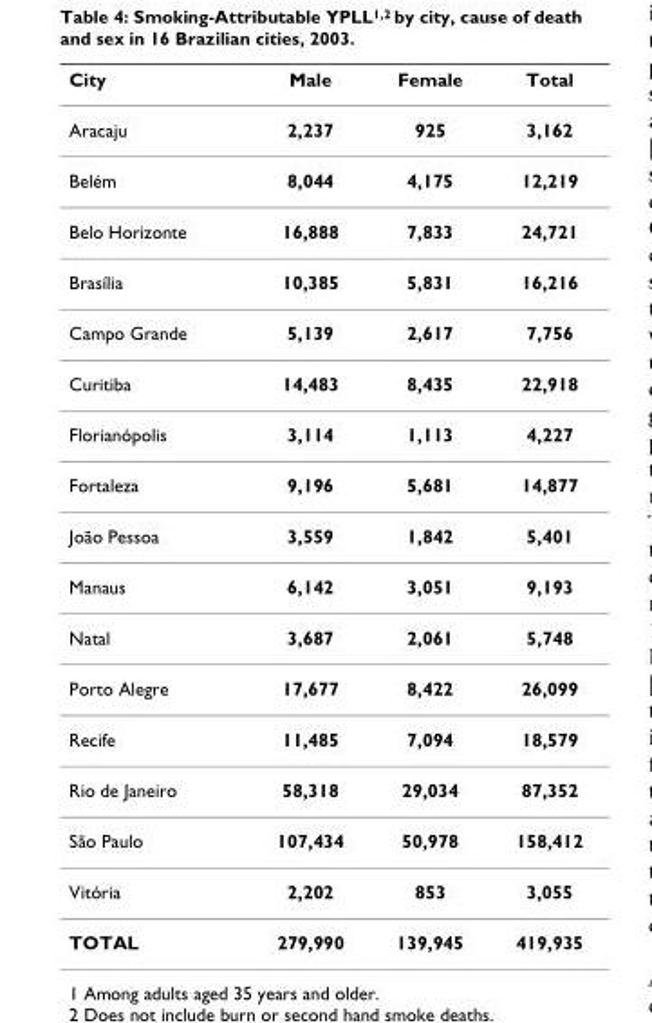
<table><thead><tr><td>City</td><td>Male</td><td>Female</td><td>Total</td></tr></thead><tbody><tr><td>Aracaju</td><td>2,237</td><td>925</td><td>3,162</td></tr><tr><td>Belém</td><td>8,044</td><td>4,175</td><td>12,219</td></tr><tr><td>Belo Horizonte</td><td>16,888</td><td>7,833</td><td>24,721</td></tr><tr><td>Brasília</td><td>10,385</td><td>5,831</td><td>16,216</td></tr><tr><td>Campo Grande</td><td>5,139</td><td>2,617</td><td>7,756</td></tr><tr><td>Curitiba</td><td>14,483</td><td>8,435</td><td>22,918</td></tr><tr><td>Florianópolis</td><td>3,114</td><td>1,113</td><td>4,227</td></tr><tr><td>Fortaleza</td><td>9,196</td><td>5,681</td><td>14,877</td></tr><tr><td>João Pessoa</td><td>3,559</td><td>1,842</td><td>5,401</td></tr><tr><td>Manaus</td><td>6,142</td><td>3,051</td><td>9,193</td></tr><tr><td>Natal</td><td>3,687</td><td>2,061</td><td>5,748</td></tr><tr><td>Porto Alegre</td><td>17,677</td><td>8,422</td><td>26,099</td></tr><tr><td>Recife</td><td>11,485</td><td>7,094</td><td>18,579</td></tr><tr><td>Rio de Janeiro</td><td>58,318</td><td>29,034</td><td>87,352</td></tr><tr><td>São Paulo</td><td>107,434</td><td>50,978</td><td>158,412</td></tr><tr><td>Vitória</td><td>2,202</td><td>853</td><td>3,055</td></tr><tr><td>TOTAL</td><td>279,990</td><td>139,945</td><td>419,935</td></tr></tbody></table>